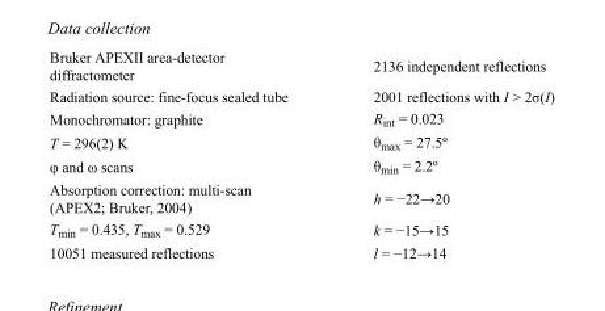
<table><tbody><tr><td>Bruker APEXII area-detector diffractometer</td><td>2136 independent reflections</td></tr><tr><td>Radiation source: fine-focus sealed tube</td><td>2001 reflections with I &gt; 2σ(I)</td></tr><tr><td>Monochromator: graphite</td><td>R<sub>int</sub> = 0.023</td></tr><tr><td>T = 296(2) K</td><td>θ<sub>max</sub> = 27.5º</td></tr><tr><td>φ and ω scans</td><td>θ<sub>min</sub> = 2.2º</td></tr><tr><td>Absorption correction: multi-scan (APEX2; Bruker, 2004)</td><td>h = −22→20</td></tr><tr><td>T<sub>min</sub> = 0.435, T<sub>max</sub> = 0.529</td><td>k = −15→15</td></tr><tr><td>10051 measured reflections</td><td>l = −12→14</td></tr></tbody></table>